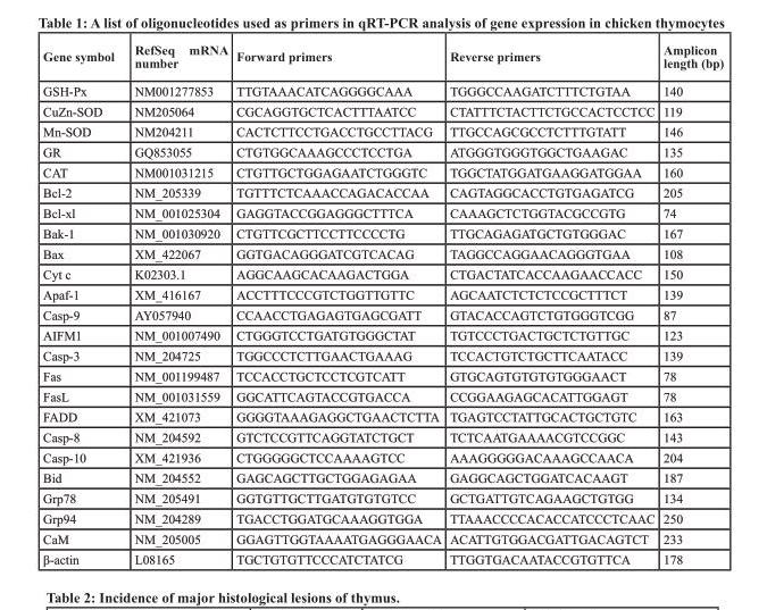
<table><thead><tr><td>Gene symbol</td><td>RefSeq mRNA number</td><td>Forward primers</td><td>Reverse primers</td><td>Amplicon length (bp)</td></tr></thead><tbody><tr><td>GSH-Px</td><td>NM001277853</td><td>TTGTAAACATCAGGGGCAAA</td><td>TGGGCCAAGATCTTTCTGTAA</td><td>140</td></tr><tr><td>CuZn-SOD</td><td>NM205064</td><td>CGCAGGTGCTCACTTTAATCC</td><td>CTATTTCTACTTCTGCCACTCCTCC</td><td>119</td></tr><tr><td>Mn-SOD</td><td>NM204211</td><td>CACTCTTCCTGACCTGCCTTACG</td><td>TTGCCAGCGCCTCTTTGTATT</td><td>146</td></tr><tr><td>GR</td><td>GQ853055</td><td>CTGTGGCAAAGCCCTCCTGA</td><td>ATGGGTGGGTGGCTGAAGAC</td><td>135</td></tr><tr><td>CAT</td><td>NM001031215</td><td>CTGTTGCTGGAGAATCTGGGTC</td><td>TGGCTATGGATGAAGGATGGAA</td><td>160</td></tr><tr><td>Bcl-2</td><td>NM_205339</td><td>TGTTTCTCAAACCAGACACCAA</td><td>CAGTAGGCACCTGTGAGATCG</td><td>205</td></tr><tr><td>Bcl-xl</td><td>NM_001025304</td><td>GAGGTACCGGAGGGCTTTCA</td><td>CAAAGCTCTGGTACGCCGTG</td><td>74</td></tr><tr><td>Bak-1</td><td>NM_001030920</td><td>CTGTTCGCTTCCTTCCCCTG</td><td>TTGCAGAGATGCTGTGGGAC</td><td>167</td></tr><tr><td>Bax</td><td>XM_422067</td><td>GGTGACAGGGATCGTCACAG</td><td>TAGGCCAGGAACAGGGTGAA</td><td>108</td></tr><tr><td>Cyt c</td><td>K02303.1</td><td>AGGCAAGCACAAGACTGGA</td><td>CTGACTATCACCAAGAACCACC</td><td>150</td></tr><tr><td>Apaf-1</td><td>XM_416167</td><td>ACCTTTCCCGTCTGGTTGTTC</td><td>AGCAATCTCTCTCCGCTTTCT</td><td>139</td></tr><tr><td>Casp-9</td><td>AY057940</td><td>CCAACCTGAGAGTGAGCGATT</td><td>GTACACCAGTCTGTGGGTCGG</td><td>87</td></tr><tr><td>AIFM1</td><td>NM_001007490</td><td>CTGGGTCCTGATGTGGGCTAT</td><td>TGTCCCTGACTGCTCTGTTGC</td><td>123</td></tr><tr><td>Casp-3</td><td>NM_204725</td><td>TGGCCCTCTTGAACTGAAAG</td><td>TCCACTGTCTGCTTCAATACC</td><td>139</td></tr><tr><td>Fas</td><td>NM_001199487</td><td>TCCACCTGCTCCTCGTCATT</td><td>GTGCAGTGTGTGTGGGAACT</td><td>78</td></tr><tr><td>FasL</td><td>NM_001031559</td><td>GGCATTCAGTACCGTGACCA</td><td>CCGGAAGAGCACATTGGAGT</td><td>78</td></tr><tr><td>FADD</td><td>XM_421073</td><td>GGGGTAAAGAGGCTGAACTCTTA</td><td>TGAGTCCTATTGCACTGCTGTC</td><td>163</td></tr><tr><td>Casp-8</td><td>NM_204592</td><td>GTCTCCGTTCAGGTATCTGCT</td><td>TCTCAATGAAAACGTCCGGC</td><td>143</td></tr><tr><td>Casp-10</td><td>XM_421936</td><td>CTGGGGGCTCCAAAAGTCC</td><td>AAAGGGGGACAAAGCCAACA</td><td>204</td></tr><tr><td>Bid</td><td>NM_204552</td><td>GAGCAGCTTGCTGGAGAGAA</td><td>GAGGCAGCTGGATCACAAGT</td><td>187</td></tr><tr><td>Grp78</td><td>NM_205491</td><td>GGTGTTGCTTGATGTGTGTCC</td><td>GCTGATTGTCAGAAGCTGTGG</td><td>134</td></tr><tr><td>Grp94</td><td>NM_204289</td><td>TGACCTGGATGCAAAGGTGGA</td><td>TTAAACCCCACACCATCCCTCAAC</td><td>250</td></tr><tr><td>CaM</td><td>NM_205005</td><td>GGAGTTGGTAAAATGAGGGAACA</td><td>ACATTGTGGACGATTGACAGTCT</td><td>233</td></tr><tr><td>β-actin</td><td>L08165</td><td>TGCTGTGTTCCCATCTATCG</td><td>TTGGTGACAATACCGTGTTCA</td><td>178</td></tr></tbody></table>